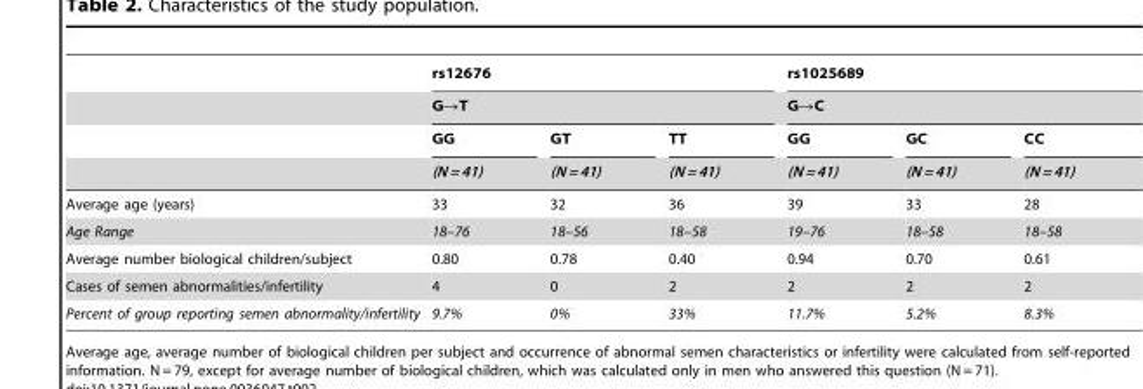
<table><thead><tr><td rowspan="4"></td><td rowspan="2" colspan="3">rs12676 G→T</td><td rowspan="2" colspan="3">rs1025689 G→C</td></tr><tr></tr><tr><td rowspan="2">GG (N = 41)</td><td rowspan="2">GT (N = 41)</td><td rowspan="2">TT (N = 41)</td><td rowspan="2">GG (N = 41)</td><td rowspan="2">GC (N = 41)</td><td rowspan="2">CC (N = 41)</td></tr><tr></tr></thead><tbody><tr><td>Average age (years)</td><td>33</td><td>32</td><td>36</td><td>39</td><td>33</td><td>28</td></tr><tr><td>Age Range</td><td>18–76</td><td>18–56</td><td>18–58</td><td>19–76</td><td>18–58</td><td>18–58</td></tr><tr><td>Average number biological children/subject</td><td>0.80</td><td>0.78</td><td>0.40</td><td>0.94</td><td>0.70</td><td>0.61</td></tr><tr><td>Cases of semen abnormalities/infertility</td><td>4</td><td>0</td><td>2</td><td>2</td><td>2</td><td>2</td></tr><tr><td>Percent of group reporting semen abnormality/infertility</td><td>9.7%</td><td>0%</td><td>33%</td><td>11.7%</td><td>5.2%</td><td>8.3%</td></tr></tbody></table>